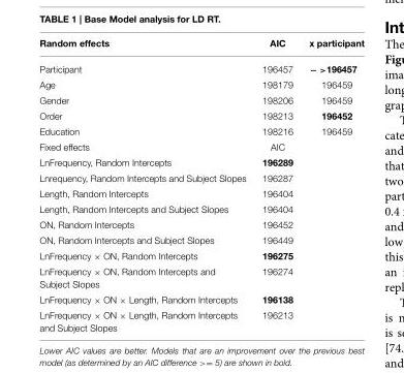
<table><thead><tr><td>Random effects</td><td>AIC</td><td>x participant</td></tr></thead><tbody><tr><td>Participant</td><td>196457</td><td>− &gt;196457</td></tr><tr><td>Age</td><td>198179</td><td>196459</td></tr><tr><td>Gender</td><td>198206</td><td>196459</td></tr><tr><td>Order</td><td>198213</td><td>196452</td></tr><tr><td>Education</td><td>198216</td><td>196459</td></tr><tr><td>Fixed effects</td><td>AIC</td><td></td></tr><tr><td>LnFrequency, Random Intercepts</td><td>196289</td><td></td></tr><tr><td>Lnrequency, Random Intercepts and Subject Slopes</td><td>196287</td><td></td></tr><tr><td>Length, Random Intercepts</td><td>196404</td><td></td></tr><tr><td>Length, Random Intercepts and Subject Slopes</td><td>196404</td><td></td></tr><tr><td>ON, Random Intercepts</td><td>196452</td><td></td></tr><tr><td>ON, Random Intercepts and Subject Slopes</td><td>196449</td><td></td></tr><tr><td>LnFrequency × ON, Random Intercepts</td><td>196275</td><td></td></tr><tr><td>LnFrequency × ON, Random Intercepts and Subject Slopes</td><td>196274</td><td></td></tr><tr><td>LnFrequency × ON × Length, Random Intercepts</td><td>196138</td><td></td></tr><tr><td>LnFrequency × ON × Length, Random Intercepts and Subject Slopes</td><td>196213</td><td></td></tr></tbody></table>